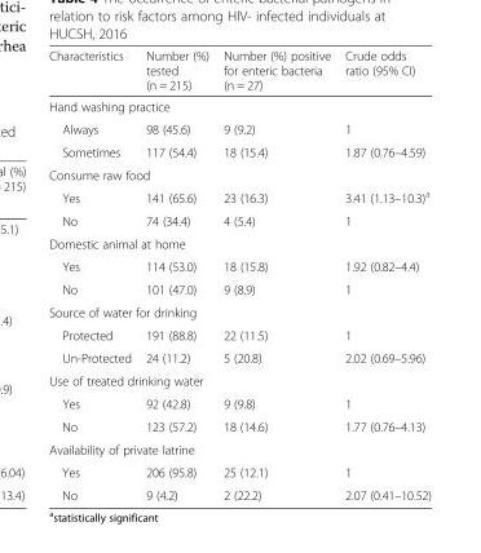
<table><thead><tr><td>Characteristics</td><td>Number (%) tested (n = 215)</td><td>Number (%) positive for enteric bacteria (n = 27)</td><td>Crude odds ratio (95% CI)</td></tr></thead><tbody><tr><td colspan="4">Hand washing practice</td></tr><tr><td>Always</td><td>98 (45.6)</td><td>9 (9.2)</td><td>1</td></tr><tr><td>Sometimes</td><td>117 (54.4)</td><td>18 (15.4)</td><td>1.87 (0.76–4.59)</td></tr><tr><td colspan="4">Consume raw food</td></tr><tr><td>Yes</td><td>141 (65.6)</td><td>23 (16.3)</td><td>3.41 (1.13–10.3)<sup>a</sup></td></tr><tr><td>No</td><td>74 (34.4)</td><td>4 (5.4)</td><td>1</td></tr><tr><td colspan="4">Domestic animal at home</td></tr><tr><td>Yes</td><td>114 (53.0)</td><td>18 (15.8)</td><td>1.92 (0.82–4.4)</td></tr><tr><td>No</td><td>101 (47.0)</td><td>9 (8.9)</td><td>1</td></tr><tr><td colspan="4">Source of water for drinking</td></tr><tr><td>Protected</td><td>191 (88.8)</td><td>22 (11.5)</td><td>1</td></tr><tr><td>Un-Protected</td><td>24 (11.2)</td><td>5 (20.8)</td><td>2.02 (0.69–5.96)</td></tr><tr><td colspan="4">Use of treated drinking water</td></tr><tr><td>Yes</td><td>92 (42.8)</td><td>9 (9.8)</td><td>1</td></tr><tr><td>No</td><td>123 (57.2)</td><td>18 (14.6)</td><td>1.77 (0.76–4.13)</td></tr><tr><td colspan="4">Availability of private latrine</td></tr><tr><td>Yes</td><td>206 (95.8)</td><td>25 (12.1)</td><td>1</td></tr><tr><td>No</td><td>9 (4.2)</td><td>2 (22.2)</td><td>2.07 (0.41–10.52)</td></tr></tbody></table>